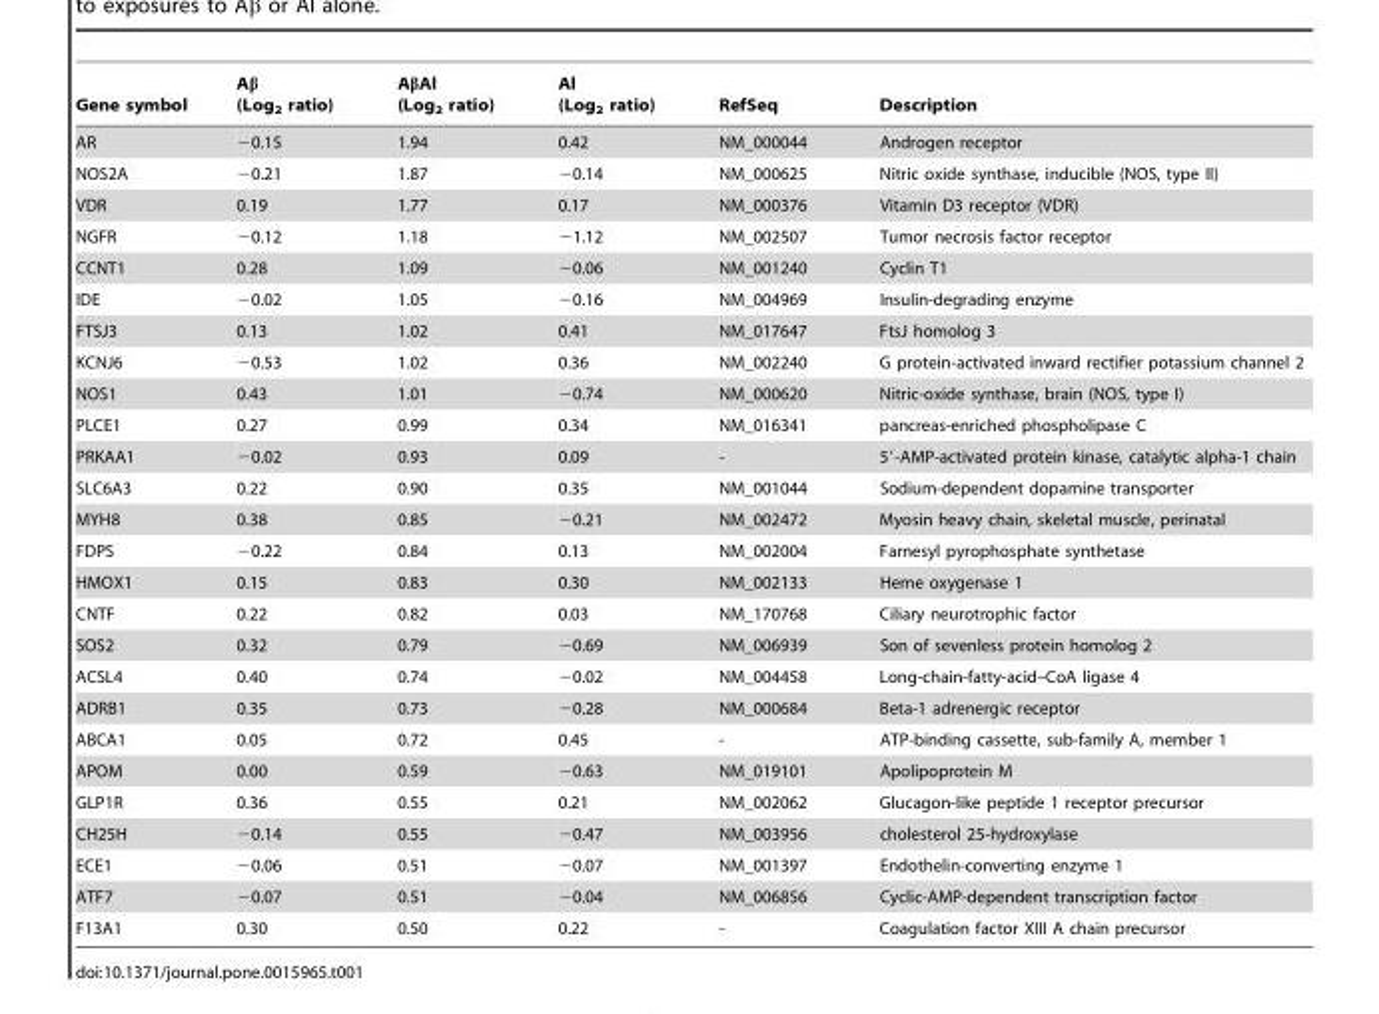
<table><thead><tr><td>Gene symbol</td><td>Aβ (Log<sub>2</sub> ratio)</td><td>AβAl (Log<sub>2</sub> ratio)</td><td>Al (Log<sub>2</sub> ratio)</td><td>RefSeq</td><td>Description</td></tr></thead><tbody><tr><td>AR</td><td>−0.15</td><td>1.94</td><td>0.42</td><td>NM_000044</td><td>Androgen receptor</td></tr><tr><td>NOS2A</td><td>−0.21</td><td>1.87</td><td>−0.14</td><td>NM_000625</td><td>Nitric oxide synthase, inducible (NOS, type II)</td></tr><tr><td>VDR</td><td>0.19</td><td>1.77</td><td>0.17</td><td>NM_000376</td><td>Vitamin D3 receptor (VDR)</td></tr><tr><td>NGFR</td><td>−0.12</td><td>1.18</td><td>−1.12</td><td>NM_002507</td><td>Tumor necrosis factor receptor</td></tr><tr><td>CCNT1</td><td>0.28</td><td>1.09</td><td>−0.06</td><td>NM_001240</td><td>Cyclin T1</td></tr><tr><td>IDE</td><td>−0.02</td><td>1.05</td><td>−0.16</td><td>NM_004969</td><td>Insulin-degrading enzyme</td></tr><tr><td>FTSJ3</td><td>0.13</td><td>1.02</td><td>0.41</td><td>NM_017647</td><td>FtsJ homolog 3</td></tr><tr><td>KCNJ6</td><td>−0.53</td><td>1.02</td><td>0.36</td><td>NM_002240</td><td>G protein-activated inward rectifier potassium channel 2</td></tr><tr><td>NOS1</td><td>0.43</td><td>1.01</td><td>−0.74</td><td>NM_000620</td><td>Nitric-oxide synthase, brain (NOS, type I)</td></tr><tr><td>PLCE1</td><td>0.27</td><td>0.99</td><td>0.34</td><td>NM_016341</td><td>pancreas-enriched phospholipase C</td></tr><tr><td>PRKAA1</td><td>−0.02</td><td>0.93</td><td>0.09</td><td>-</td><td>5′-AMP-activated protein kinase, catalytic alpha-1 chain</td></tr><tr><td>SLC6A3</td><td>0.22</td><td>0.90</td><td>0.35</td><td>NM_001044</td><td>Sodium-dependent dopamine transporter</td></tr><tr><td>MYH8</td><td>0.38</td><td>0.85</td><td>−0.21</td><td>NM_002472</td><td>Myosin heavy chain, skeletal muscle, perinatal</td></tr><tr><td>FDPS</td><td>−0.22</td><td>0.84</td><td>0.13</td><td>NM_002004</td><td>Farnesyl pyrophosphate synthetase</td></tr><tr><td>HMOX1</td><td>0.15</td><td>0.83</td><td>0.30</td><td>NM_002133</td><td>Heme oxygenase 1</td></tr><tr><td>CNTF</td><td>0.22</td><td>0.82</td><td>0.03</td><td>NM_170768</td><td>Ciliary neurotrophic factor</td></tr><tr><td>SOS2</td><td>0.32</td><td>0.79</td><td>−0.69</td><td>NM_006939</td><td>Son of sevenless protein homolog 2</td></tr><tr><td>ACSL4</td><td>0.40</td><td>0.74</td><td>−0.02</td><td>NM_004458</td><td>Long-chain-fatty-acid–CoA ligase 4</td></tr><tr><td>ADRB1</td><td>0.35</td><td>0.73</td><td>−0.28</td><td>NM_000684</td><td>Beta-1 adrenergic receptor</td></tr><tr><td>ABCA1</td><td>0.05</td><td>0.72</td><td>0.45</td><td>-</td><td>ATP-binding cassette, sub-family A, member 1</td></tr><tr><td>APOM</td><td>0.00</td><td>0.59</td><td>−0.63</td><td>NM_019101</td><td>Apolipoprotein M</td></tr><tr><td>GLP1R</td><td>0.36</td><td>0.55</td><td>0.21</td><td>NM_002062</td><td>Glucagon-like peptide 1 receptor precursor</td></tr><tr><td>CH25H</td><td>−0.14</td><td>0.55</td><td>−0.47</td><td>NM_003956</td><td>cholesterol 25-hydroxylase</td></tr><tr><td>ECE1</td><td>−0.06</td><td>0.51</td><td>−0.07</td><td>NM_001397</td><td>Endothelin-converting enzyme 1</td></tr><tr><td>ATF7</td><td>−0.07</td><td>0.51</td><td>−0.04</td><td>NM_006856</td><td>Cyclic-AMP-dependent transcription factor</td></tr><tr><td>F13A1</td><td>0.30</td><td>0.50</td><td>0.22</td><td>-</td><td>Coagulation factor XIII A chain precursor</td></tr></tbody></table>